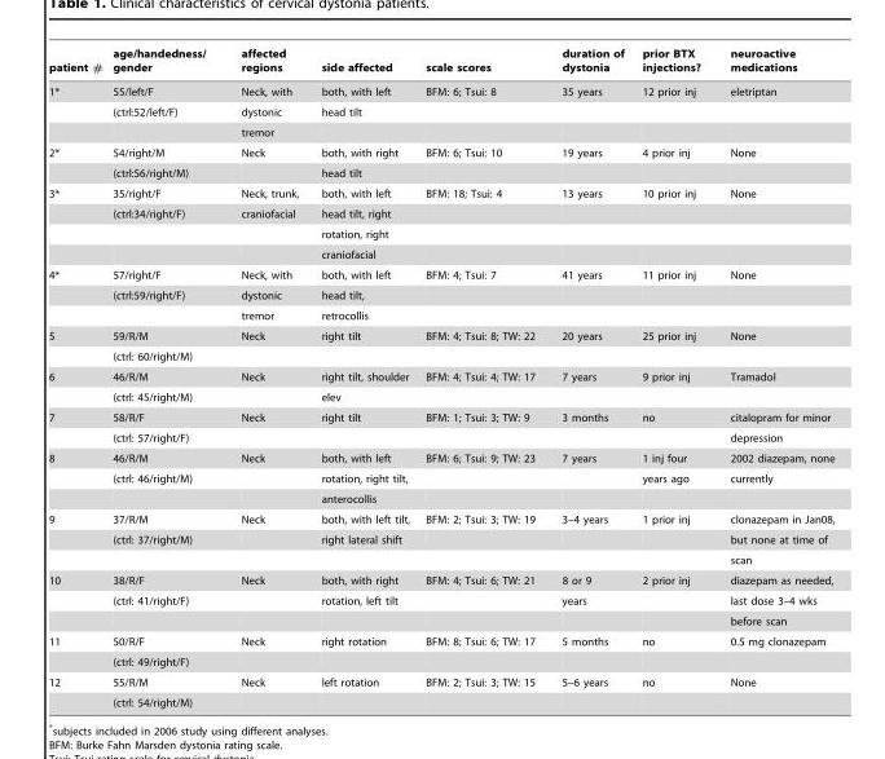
<table><thead><tr><td>patient #</td><td>age/handedness/ gender</td><td>affected regions</td><td>side affected</td><td>scale scores</td><td>duration of dystonia</td><td>prior BTX injections?</td><td>neuroactive medications</td></tr></thead><tbody><tr><td rowspan="3">1*</td><td>55/left/F</td><td>Neck, with</td><td>both, with left</td><td>BFM: 6; Tsui: 8</td><td>35 years</td><td>12 prior inj</td><td>eletriptan</td></tr><tr><td>(ctrl:52/left/F)</td><td>dystonic</td><td>head tilt</td><td></td><td></td><td></td><td></td></tr><tr><td></td><td>tremor</td><td></td><td></td><td></td><td></td><td></td></tr><tr><td rowspan="2">2*</td><td>54/right/M</td><td>Neck</td><td>both, with right</td><td>BFM: 6; Tsui: 10</td><td>19 years</td><td>4 prior inj</td><td>None</td></tr><tr><td>(ctrl:56/right/M)</td><td></td><td>head tilt</td><td></td><td></td><td></td><td></td></tr><tr><td rowspan="4">3*</td><td>35/right/F</td><td>Neck, trunk,</td><td>both, with left</td><td>BFM: 18; Tsui: 4</td><td>13 years</td><td>10 prior inj</td><td>None</td></tr><tr><td>(ctrl:34/right/F)</td><td>craniofacial</td><td>head tilt, right</td><td></td><td></td><td></td><td></td></tr><tr><td></td><td></td><td>rotation, right</td><td></td><td></td><td></td><td></td></tr><tr><td></td><td></td><td>craniofacial</td><td></td><td></td><td></td><td></td></tr><tr><td rowspan="3">4*</td><td>57/right/F</td><td>Neck, with</td><td>both, with left</td><td>BFM: 4; Tsui: 7</td><td>41 years</td><td>11 prior inj</td><td>None</td></tr><tr><td>(ctrl:59/right/F)</td><td>dystonic</td><td>head tilt,</td><td></td><td></td><td></td><td></td></tr><tr><td></td><td>tremor</td><td>retrocollis</td><td></td><td></td><td></td><td></td></tr><tr><td rowspan="2">5</td><td>59/R/M</td><td>Neck</td><td>right tilt</td><td>BFM: 4; Tsui: 8; TW: 22</td><td>20 years</td><td>25 prior inj</td><td>None</td></tr><tr><td>(ctrl: 60/right/M)</td><td></td><td></td><td></td><td></td><td></td><td></td></tr><tr><td rowspan="2">6</td><td>46/R/M</td><td>Neck</td><td>right tilt, shoulder</td><td>BFM: 4; Tsui: 4; TW: 17</td><td>7 years</td><td>9 prior inj</td><td>Tramadol</td></tr><tr><td>(ctrl: 45/right/M)</td><td></td><td>elev</td><td></td><td></td><td></td><td></td></tr><tr><td rowspan="2">7</td><td>58/R/F</td><td>Neck</td><td>right tilt</td><td>BFM: 1; Tsui: 3; TW: 9</td><td>3 months</td><td>no</td><td>citalopram for minor</td></tr><tr><td>(ctrl: 57/right/F)</td><td></td><td></td><td></td><td></td><td></td><td>depression</td></tr><tr><td rowspan="3">8</td><td>46/R/M</td><td>Neck</td><td>both, with left</td><td>BFM: 6; Tsui: 9; TW: 23</td><td>7 years</td><td>1 inj four</td><td>2002 diazepam, none</td></tr><tr><td>(ctrl: 46/right/M)</td><td></td><td>rotation, right tilt,</td><td></td><td></td><td>years ago</td><td>currently</td></tr><tr><td></td><td></td><td>anterocollis</td><td></td><td></td><td></td><td></td></tr><tr><td rowspan="3">9</td><td>37/R/M</td><td>Neck</td><td>both, with left tilt,</td><td>BFM: 2; Tsui: 3; TW: 19</td><td>3–4 years</td><td>1 prior inj</td><td>clonazepam in Jan08,</td></tr><tr><td>(ctrl: 37/right/M)</td><td></td><td>right lateral shift</td><td></td><td></td><td></td><td>but none at time of</td></tr><tr><td></td><td></td><td></td><td></td><td></td><td></td><td>scan</td></tr><tr><td rowspan="3">10</td><td>38/R/F</td><td>Neck</td><td>both, with right</td><td>BFM: 4; Tsui: 6; TW: 21</td><td>8 or 9</td><td>2 prior inj</td><td>diazepam as needed,</td></tr><tr><td>(ctrl: 41/right/F)</td><td></td><td>rotation, left tilt</td><td></td><td>years</td><td></td><td>last dose 3–4 wks</td></tr><tr><td></td><td></td><td></td><td></td><td></td><td></td><td>before scan</td></tr><tr><td rowspan="2">11</td><td>50/R/F</td><td>Neck</td><td>right rotation</td><td>BFM: 8; Tsui: 6; TW: 17</td><td>5 months</td><td>no</td><td>0.5 mg clonazepam</td></tr><tr><td>(ctrl: 49/right/F)</td><td></td><td></td><td></td><td></td><td></td><td></td></tr><tr><td rowspan="2">12</td><td>55/R/M</td><td>Neck</td><td>left rotation</td><td>BFM: 2; Tsui: 3; TW: 15</td><td>5–6 years</td><td>no</td><td>None</td></tr><tr><td>(ctrl: 54/right/M)</td><td></td><td></td><td></td><td></td><td></td><td></td></tr></tbody></table>